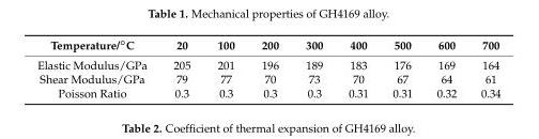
<table><thead><tr><td>Temperature/◦C</td><td>20</td><td>100</td><td>200</td><td>300</td><td>400</td><td>500</td><td>600</td><td>700</td></tr></thead><tbody><tr><td>Elastic Modulus/GPa</td><td>205</td><td>201</td><td>196</td><td>189</td><td>183</td><td>176</td><td>169</td><td>164</td></tr><tr><td>Shear Modulus/GPa</td><td>79</td><td>77</td><td>70</td><td>73</td><td>70</td><td>67</td><td>64</td><td>61</td></tr><tr><td>Poisson Ratio</td><td>0.3</td><td>0.3</td><td>0.3</td><td>0.3</td><td>0.31</td><td>0.31</td><td>0.32</td><td>0.34</td></tr></tbody></table>